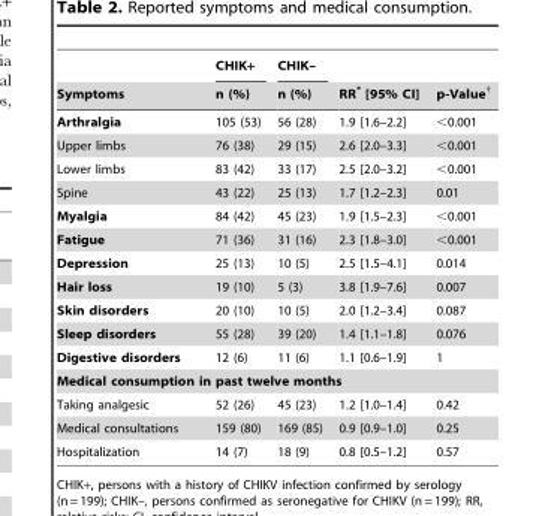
<table><thead><tr><td rowspan="2">Symptoms</td><td rowspan="2">CHIK+ n (%)</td><td rowspan="2">CHIK– n (%)</td><td rowspan="2">RR* [95% CI]</td><td rowspan="2">p-Value†</td></tr><tr></tr></thead><tbody><tr><td>Arthralgia</td><td>105 (53)</td><td>56 (28)</td><td>1.9 [1.6–2.2]</td><td>&lt;0.001</td></tr><tr><td>Upper limbs</td><td>76 (38)</td><td>29 (15)</td><td>2.6 [2.0–3.3]</td><td>&lt;0.001</td></tr><tr><td>Lower limbs</td><td>83 (42)</td><td>33 (17)</td><td>2.5 [2.0–3.2]</td><td>&lt;0.001</td></tr><tr><td>Spine</td><td>43 (22)</td><td>25 (13)</td><td>1.7 [1.2–2.3]</td><td>0.01</td></tr><tr><td>Myalgia</td><td>84 (42)</td><td>45 (23)</td><td>1.9 [1.5–2.3]</td><td>&lt;0.001</td></tr><tr><td>Fatigue</td><td>71 (36)</td><td>31 (16)</td><td>2.3 [1.8–3.0]</td><td>&lt;0.001</td></tr><tr><td>Depression</td><td>25 (13)</td><td>10 (5)</td><td>2.5 [1.5–4.1]</td><td>0.014</td></tr><tr><td>Hair loss</td><td>19 (10)</td><td>5 (3)</td><td>3.8 [1.9–7.6]</td><td>0.007</td></tr><tr><td>Skin disorders</td><td>20 (10)</td><td>10 (5)</td><td>2.0 [1.2–3.4]</td><td>0.087</td></tr><tr><td>Sleep disorders</td><td>55 (28)</td><td>39 (20)</td><td>1.4 [1.1–1.8]</td><td>0.076</td></tr><tr><td>Digestive disorders</td><td>12 (6)</td><td>11 (6)</td><td>1.1 [0.6–1.9]</td><td>1</td></tr><tr><td colspan="5">Medical consumption in past twelve months</td></tr><tr><td>Taking analgesic</td><td>52 (26)</td><td>45 (23)</td><td>1.2 [1.0–1.4]</td><td>0.42</td></tr><tr><td>Medical consultations</td><td>159 (80)</td><td>169 (85)</td><td>0.9 [0.9–1.0]</td><td>0.25</td></tr><tr><td>Hospitalization</td><td>14 (7)</td><td>18 (9)</td><td>0.8 [0.5–1.2]</td><td>0.57</td></tr></tbody></table>